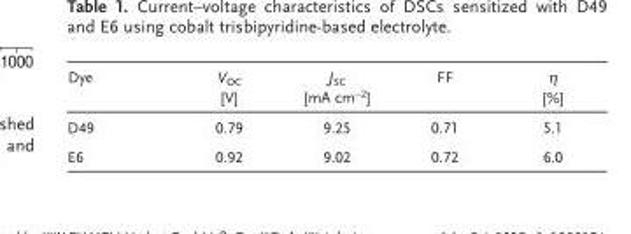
<table><thead><tr><td>Dye</td><td>V <sub>OC</sub> [V]</td><td>J <sub>SC</sub> [mA cm <sup>−2</sup> ]</td><td>FF</td><td>η [%]</td></tr></thead><tbody><tr><td>D49</td><td>0.79</td><td>9.25</td><td>0.71</td><td>5.1</td></tr><tr><td>E6</td><td>0.92</td><td>9.02</td><td>0.72</td><td>6.0</td></tr></tbody></table>